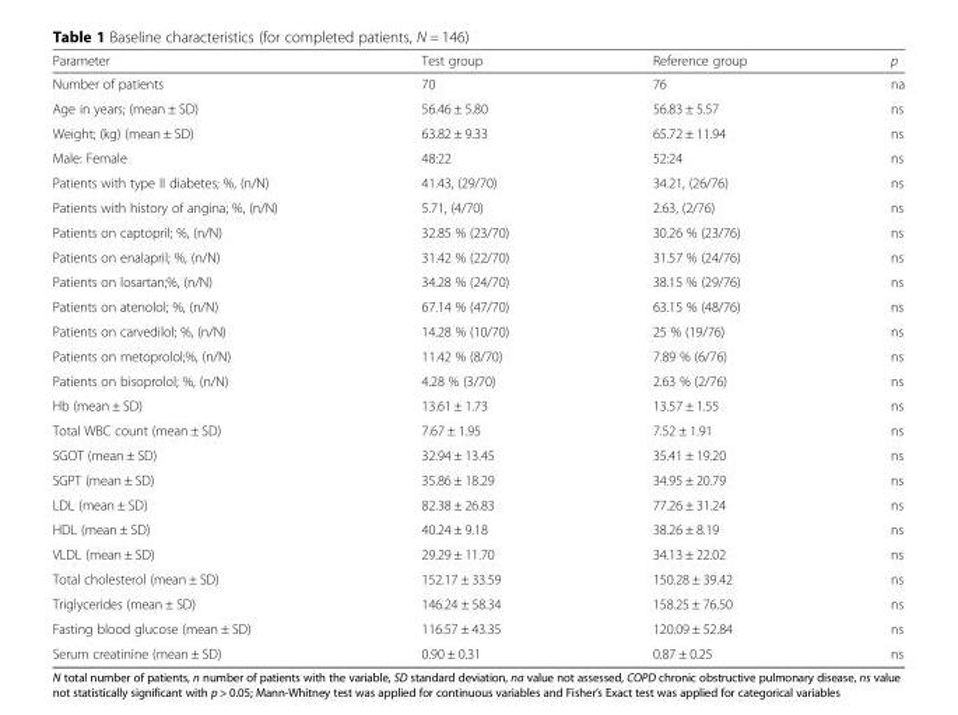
<table><thead><tr><td>Parameter</td><td>Test group</td><td>Reference group</td><td>p</td></tr></thead><tbody><tr><td>Number of patients</td><td>70</td><td>76</td><td>na</td></tr><tr><td>Age in years; (mean ± SD)</td><td>56.46 ± 5.80</td><td>56.83 ± 5.57</td><td>ns</td></tr><tr><td>Weight; (kg) (mean ± SD)</td><td>63.82 ± 9.33</td><td>65.72 ± 11.94</td><td>ns</td></tr><tr><td>Male: Female</td><td>48:22</td><td>52:24</td><td>ns</td></tr><tr><td>Patients with type II diabetes; %, (n/N)</td><td>41.43, (29/70)</td><td>34.21, (26/76)</td><td>ns</td></tr><tr><td>Patients with history of angina; %, (n/N)</td><td>5.71, (4/70)</td><td>2.63, (2/76)</td><td>ns</td></tr><tr><td>Patients on captopril; %, (n/N)</td><td>32.85 % (23/70)</td><td>30.26 % (23/76)</td><td>ns</td></tr><tr><td>Patients on enalapril; %, (n/N)</td><td>31.42 % (22/70)</td><td>31.57 % (24/76)</td><td>ns</td></tr><tr><td>Patients on losartan;%, (n/N)</td><td>34.28 % (24/70)</td><td>38.15 % (29/76)</td><td>ns</td></tr><tr><td>Patients on atenolol; %, (n/N)</td><td>67.14 % (47/70)</td><td>63.15 % (48/76)</td><td>ns</td></tr><tr><td>Patients on carvedilol; %, (n/N)</td><td>14.28 % (10/70)</td><td>25 % (19/76)</td><td>ns</td></tr><tr><td>Patients on metoprolol;%, (n/N)</td><td>11.42 % (8/70)</td><td>7.89 % (6/76)</td><td>ns</td></tr><tr><td>Patients on bisoprolol; %, (n/N)</td><td>4.28 % (3/70)</td><td>2.63 % (2/76)</td><td>ns</td></tr><tr><td>Hb (mean ± SD)</td><td>13.61 ± 1.73</td><td>13.57 ± 1.55</td><td>ns</td></tr><tr><td>Total WBC count (mean ± SD)</td><td>7.67 ± 1.95</td><td>7.52 ± 1.91</td><td>ns</td></tr><tr><td>SGOT (mean ± SD)</td><td>32.94 ± 13.45</td><td>35.41 ± 19.20</td><td>ns</td></tr><tr><td>SGPT (mean ± SD)</td><td>35.86 ± 18.29</td><td>34.95 ± 20.79</td><td>ns</td></tr><tr><td>LDL (mean ± SD)</td><td>82.38 ± 26.83</td><td>77.26 ± 31.24</td><td>ns</td></tr><tr><td>HDL (mean ± SD)</td><td>40.24 ± 9.18</td><td>38.26 ± 8.19</td><td>ns</td></tr><tr><td>VLDL (mean ± SD)</td><td>29.29 ± 11.70</td><td>34.13 ± 22.02</td><td>ns</td></tr><tr><td>Total cholesterol (mean ± SD)</td><td>152.17 ± 33.59</td><td>150.28 ± 39.42</td><td>ns</td></tr><tr><td>Triglycerides (mean ± SD)</td><td>146.24 ± 58.34</td><td>158.25 ± 76.50</td><td>ns</td></tr><tr><td>Fasting blood glucose (mean ± SD)</td><td>116.57 ± 43.35</td><td>120.09 ± 52.84</td><td>ns</td></tr><tr><td>Serum creatinine (mean ± SD)</td><td>0.90 ± 0.31</td><td>0.87 ± 0.25</td><td>ns</td></tr></tbody></table>